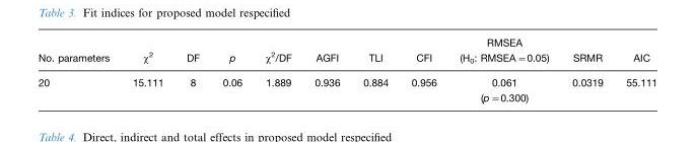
<table><thead><tr><td>No. parameters</td><td>χ<sup>2</sup></td><td>DF</td><td>p</td><td>χ<sup>2</sup>/DF</td><td>AGFI</td><td>TLI</td><td>CFI</td><td>RMSEA (H<sub>0</sub>: RMSEA=0.05)</td><td>SRMR</td><td>AIC</td></tr></thead><tbody><tr><td>20</td><td>15.111</td><td>8</td><td>0.06</td><td>1.889</td><td>0.936</td><td>0.884</td><td>0.956</td><td>0.061 (p=0.300)</td><td>0.0319</td><td>55.111</td></tr></tbody></table>